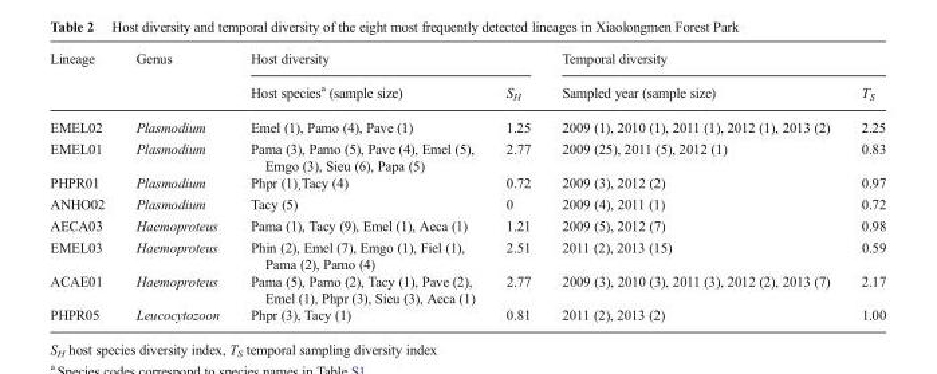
<table><thead><tr><td rowspan="2">Lineage</td><td rowspan="2">Genus</td><td colspan="2">Host diversity</td><td colspan="2">Temporal diversity</td></tr><tr><td>Host species<sup>a</sup> (sample size)</td><td>S<sub>H</sub></td><td>Sampled year (sample size)</td><td>T<sub>S</sub></td></tr></thead><tbody><tr><td>EMEL02</td><td>Plasmodium</td><td>Emel (1), Pamo (4), Pave (1)</td><td>1.25</td><td>2009 (1), 2010 (1), 2011 (1), 2012 (1), 2013 (2)</td><td>2.25</td></tr><tr><td>EMEL01</td><td>Plasmodium</td><td>Pama (3), Pamo (5), Pave (4), Emel (5), Emgo (3), Sieu (6), Papa (5)</td><td>2.77</td><td>2009 (25), 2011 (5), 2012 (1)</td><td>0.83</td></tr><tr><td>PHPR01</td><td>Plasmodium</td><td>Phpr (1)¸Tacy (4)</td><td>0.72</td><td>2009 (3), 2012 (2)</td><td>0.97</td></tr><tr><td>ANHO02</td><td>Plasmodium</td><td>Tacy (5)</td><td>0</td><td>2009 (4), 2011 (1)</td><td>0.72</td></tr><tr><td>AECA03</td><td>Haemoproteus</td><td>Pama (1), Tacy (9), Emel (1), Aeca (1)</td><td>1.21</td><td>2009 (5), 2012 (7)</td><td>0.98</td></tr><tr><td>EMEL03</td><td>Haemoproteus</td><td>Phin (2), Emel (7), Emgo (1), Fiel (1), Pama (2), Pamo (4)</td><td>2.51</td><td>2011 (2), 2013 (15)</td><td>0.59</td></tr><tr><td>ACAE01</td><td>Haemoproteus</td><td>Pama (5), Pamo (2), Tacy (1), Pave (2), Emel (1), Phpr (3), Sieu (3), Aeca (1)</td><td>2.77</td><td>2009 (3), 2010 (3), 2011 (3), 2012 (2), 2013 (7)</td><td>2.17</td></tr><tr><td>PHPR05</td><td>Leucocytozoon</td><td>Phpr (3), Tacy (1)</td><td>0.81</td><td>2011 (2), 2013 (2)</td><td>1.00</td></tr></tbody></table>